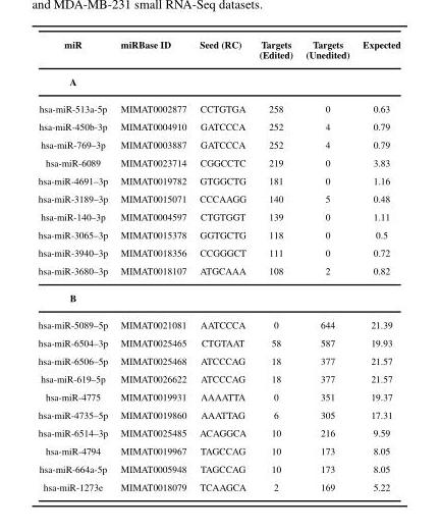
<table><thead><tr><td>miR</td><td>miRBase ID</td><td>Seed (RC)</td><td>Targets (Edited)</td><td>Targets (Unedited)</td><td>Expected</td></tr></thead><tbody><tr><td colspan="6">A</td></tr><tr><td>hsa-miR-513a-5p</td><td>MIMAT0002877</td><td>CCTGTGA</td><td>258</td><td>0</td><td>0.63</td></tr><tr><td>hsa-miR-450b-3p</td><td>MIMAT0004910</td><td>GATCCCA</td><td>252</td><td>4</td><td>0.79</td></tr><tr><td>hsa-miR-769–3p</td><td>MIMAT0003887</td><td>GATCCCA</td><td>252</td><td>4</td><td>0.79</td></tr><tr><td>hsa-miR-6089</td><td>MIMAT0023714</td><td>CGGCCTC</td><td>219</td><td>0</td><td>3.83</td></tr><tr><td>hsa-miR-4691–3p</td><td>MIMAT0019782</td><td>GTGGCTG</td><td>181</td><td>0</td><td>1.16</td></tr><tr><td>hsa-miR-3189–3p</td><td>MIMAT0015071</td><td>CCCAAGG</td><td>140</td><td>5</td><td>0.48</td></tr><tr><td>hsa-miR-140–3p</td><td>MIMAT0004597</td><td>CTGTGGT</td><td>139</td><td>0</td><td>1.11</td></tr><tr><td>hsa-miR-3065–3p</td><td>MIMAT0015378</td><td>GGTGCTG</td><td>118</td><td>0</td><td>0.5</td></tr><tr><td>hsa-miR-3940–3p</td><td>MIMAT0018356</td><td>CCGGGCT</td><td>111</td><td>0</td><td>0.72</td></tr><tr><td>hsa-miR-3680–3p</td><td>MIMAT0018107</td><td>ATGCAAA</td><td>108</td><td>2</td><td>0.82</td></tr><tr><td colspan="6">B</td></tr><tr><td>hsa-miR-5089–5p</td><td>MIMAT0021081</td><td>AATCCCA</td><td>0</td><td>644</td><td>21.39</td></tr><tr><td>hsa-miR-6504–3p</td><td>MIMAT0025465</td><td>CTGTAAT</td><td>58</td><td>587</td><td>19.93</td></tr><tr><td>hsa-miR-6506–5p</td><td>MIMAT0025468</td><td>ATCCCAG</td><td>18</td><td>377</td><td>21.57</td></tr><tr><td>hsa-miR-619–5p</td><td>MIMAT0026622</td><td>ATCCCAG</td><td>18</td><td>377</td><td>21.57</td></tr><tr><td>hsa-miR-4775</td><td>MIMAT0019931</td><td>AAAATTA</td><td>0</td><td>351</td><td>19.37</td></tr><tr><td>hsa-miR-4735–5p</td><td>MIMAT0019860</td><td>AAATTAG</td><td>6</td><td>305</td><td>17.31</td></tr><tr><td>hsa-miR-6514–3p</td><td>MIMAT0025485</td><td>ACAGGCA</td><td>10</td><td>216</td><td>9.59</td></tr><tr><td>hsa-miR-4794</td><td>MIMAT0019967</td><td>TAGCCAG</td><td>10</td><td>173</td><td>8.05</td></tr><tr><td>hsa-miR-664a-5p</td><td>MIMAT0005948</td><td>TAGCCAG</td><td>10</td><td>173</td><td>8.05</td></tr><tr><td>hsa-miR-1273e</td><td>MIMAT0018079</td><td>TCAAGCA</td><td>2</td><td>169</td><td>5.22</td></tr></tbody></table>